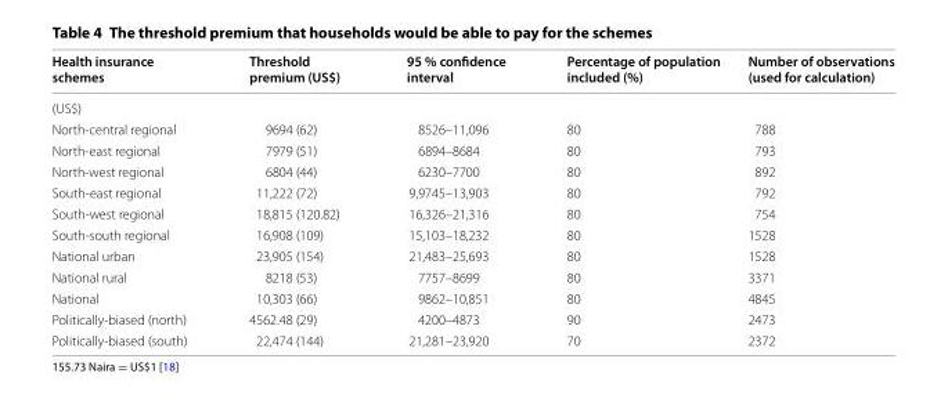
<table><thead><tr><td>Health insurance schemes</td><td>Threshold premium (US$)</td><td>95 % confidence interval</td><td>Percentage of population included (%)</td><td>Number of observations (used for calculation)</td></tr></thead><tbody><tr><td colspan="5">(US$)</td></tr><tr><td>North-central regional</td><td>9694 (62)</td><td>8526–11,096</td><td>80</td><td>788</td></tr><tr><td>North-east regional</td><td>7979 (51)</td><td>6894–8684</td><td>80</td><td>793</td></tr><tr><td>North-west regional</td><td>6804 (44)</td><td>6230–7700</td><td>80</td><td>892</td></tr><tr><td>South-east regional</td><td>11,222 (72)</td><td>9,9745–13,903</td><td>80</td><td>792</td></tr><tr><td>South-west regional</td><td>18,815 (120.82)</td><td>16,326–21,316</td><td>80</td><td>754</td></tr><tr><td>South-south regional</td><td>16,908 (109)</td><td>15,103–18,232</td><td>80</td><td>1528</td></tr><tr><td>National urban</td><td>23,905 (154)</td><td>21,483–25,693</td><td>80</td><td>1528</td></tr><tr><td>National rural</td><td>8218 (53)</td><td>7757–8699</td><td>80</td><td>3371</td></tr><tr><td>National</td><td>10,303 (66)</td><td>9862–10,851</td><td>80</td><td>4845</td></tr><tr><td>Politically-biased (north)</td><td>4562.48 (29)</td><td>4200–4873</td><td>90</td><td>2473</td></tr><tr><td>Politically-biased (south)</td><td>22,474 (144)</td><td>21,281–23,920</td><td>70</td><td>2372</td></tr></tbody></table>